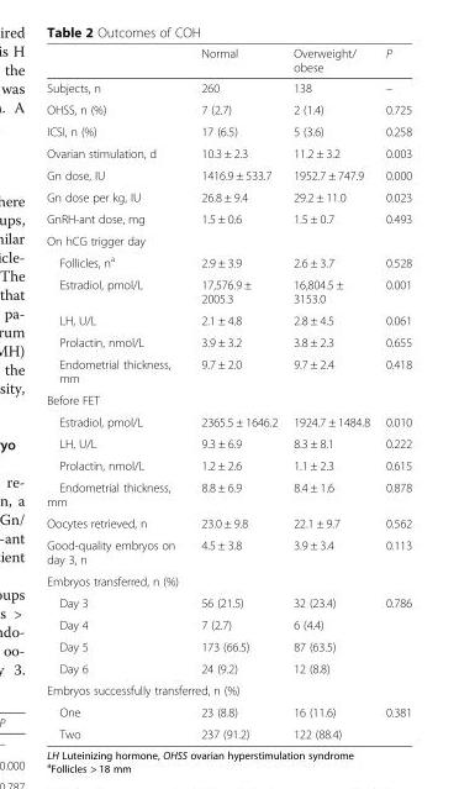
<table><thead><tr><td></td><td>Normal</td><td>Overweight/ obese</td><td>P</td></tr></thead><tbody><tr><td>Subjects, n</td><td>260</td><td>138</td><td>–</td></tr><tr><td>OHSS, n (%)</td><td>7 (2.7)</td><td>2 (1.4)</td><td>0.725</td></tr><tr><td>ICSI, n (%)</td><td>17 (6.5)</td><td>5 (3.6)</td><td>0.258</td></tr><tr><td>Ovarian stimulation, d</td><td>10.3 ± 2.3</td><td>11.2 ± 3.2</td><td>0.003</td></tr><tr><td>Gn dose, IU</td><td>1416.9 ± 533.7</td><td>1952.7 ± 747.9</td><td>0.000</td></tr><tr><td>Gn dose per kg, IU</td><td>26.8 ± 9.4</td><td>29.2 ± 11.0</td><td>0.023</td></tr><tr><td>GnRH-ant dose, mg</td><td>1.5 ± 0.6</td><td>1.5 ± 0.7</td><td>0.493</td></tr><tr><td colspan="4">On hCG trigger day</td></tr><tr><td>Follicles, n<sup>a</sup></td><td>2.9 ± 3.9</td><td>2.6 ± 3.7</td><td>0.528</td></tr><tr><td>Estradiol, pmol/L</td><td>17,576.9 ± 2005.3</td><td>16,804.5 ± 3153.0</td><td>0.001</td></tr><tr><td>LH, U/L</td><td>2.1 ± 4.8</td><td>2.8 ± 4.5</td><td>0.061</td></tr><tr><td>Prolactin, nmol/L</td><td>3.9 ± 3.2</td><td>3.8 ± 2.3</td><td>0.655</td></tr><tr><td>Endometrial thickness, mm</td><td>9.7 ± 2.0</td><td>9.7 ± 2.4</td><td>0.418</td></tr><tr><td colspan="4">Before FET</td></tr><tr><td>Estradiol, pmol/L</td><td>2365.5 ± 1646.2</td><td>1924.7 ± 1484.8</td><td>0.010</td></tr><tr><td>LH, U/L</td><td>9.3 ± 6.9</td><td>8.3 ± 8.1</td><td>0.222</td></tr><tr><td>Prolactin, nmol/L</td><td>1.2 ± 2.6</td><td>1.1 ± 2.3</td><td>0.615</td></tr><tr><td>Endometrial thickness, mm</td><td>8.8 ± 6.9</td><td>8.4 ± 1.6</td><td>0.878</td></tr><tr><td>Oocytes retrieved, n</td><td>23.0 ± 9.8</td><td>22.1 ± 9.7</td><td>0.562</td></tr><tr><td>Good-quality embryos on day 3, n</td><td>4.5 ± 3.8</td><td>3.9 ± 3.4</td><td>0.113</td></tr><tr><td colspan="4">Embryos transferred, n (%)</td></tr><tr><td>Day 3</td><td>56 (21.5)</td><td>32 (23.4)</td><td>0.786</td></tr><tr><td>Day 4</td><td>7 (2.7)</td><td>6 (4.4)</td><td></td></tr><tr><td>Day 5</td><td>173 (66.5)</td><td>87 (63.5)</td><td></td></tr><tr><td>Day 6</td><td>24 (9.2)</td><td>12 (8.8)</td><td></td></tr><tr><td colspan="4">Embryos successfully transferred, n (%)</td></tr><tr><td>One</td><td>23 (8.8)</td><td>16 (11.6)</td><td>0.381</td></tr><tr><td>Two</td><td>237 (91.2)</td><td>122 (88.4)</td><td></td></tr></tbody></table>